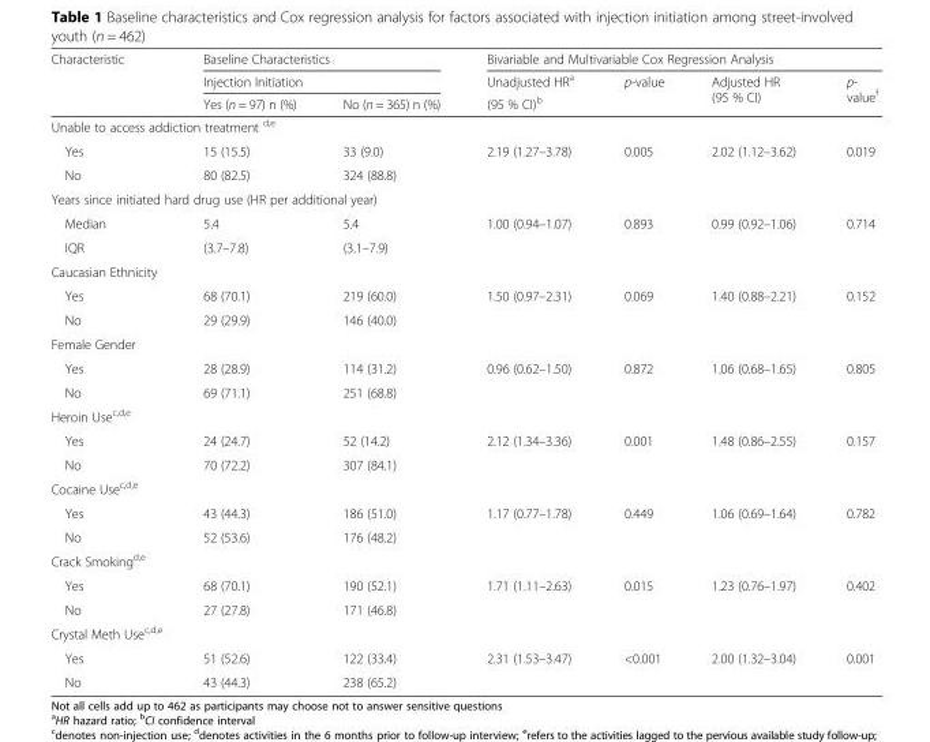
<table><thead><tr><td rowspan="3">Characteristic</td><td rowspan="2" colspan="2">Baseline Characteristics Injection Initiation</td><td colspan="4">Bivariable and Multivariable Cox Regression Analysis</td></tr><tr><td rowspan="2">Unadjusted HR<sup>a</sup> (95 % CI)<sup>b</sup></td><td rowspan="2">p-value</td><td rowspan="2">Adjusted HR (95 % CI)</td><td rowspan="2">p- value<sup>f</sup></td></tr><tr><td>Yes (n = 97) n (%)</td><td>No (n = 365) n (%)</td></tr></thead><tbody><tr><td colspan="7">Unable to access addiction treatment <sup>d,e</sup></td></tr><tr><td>Yes</td><td>15 (15.5)</td><td>33 (9.0)</td><td>2.19 (1.27–3.78)</td><td>0.005</td><td>2.02 (1.12–3.62)</td><td>0.019</td></tr><tr><td>No</td><td>80 (82.5)</td><td>324 (88.8)</td><td></td><td></td><td></td><td></td></tr><tr><td colspan="7">Years since initiated hard drug use (HR per additional year)</td></tr><tr><td>Median</td><td>5.4</td><td>5.4</td><td>1.00 (0.94–1.07)</td><td>0.893</td><td>0.99 (0.92–1.06)</td><td>0.714</td></tr><tr><td>IQR</td><td>(3.7–7.8)</td><td>(3.1–7.9)</td><td></td><td></td><td></td><td></td></tr><tr><td colspan="7">Caucasian Ethnicity</td></tr><tr><td>Yes</td><td>68 (70.1)</td><td>219 (60.0)</td><td>1.50 (0.97–2.31)</td><td>0.069</td><td>1.40 (0.88–2.21)</td><td>0.152</td></tr><tr><td>No</td><td>29 (29.9)</td><td>146 (40.0)</td><td></td><td></td><td></td><td></td></tr><tr><td colspan="7">Female Gender</td></tr><tr><td>Yes</td><td>28 (28.9)</td><td>114 (31.2)</td><td>0.96 (0.62–1.50)</td><td>0.872</td><td>1.06 (0.68–1.65)</td><td>0.805</td></tr><tr><td>No</td><td>69 (71.1)</td><td>251 (68.8)</td><td></td><td></td><td></td><td></td></tr><tr><td colspan="7">Heroin Use<sup>c,d,e</sup></td></tr><tr><td>Yes</td><td>24 (24.7)</td><td>52 (14.2)</td><td>2.12 (1.34–3.36)</td><td>0.001</td><td>1.48 (0.86–2.55)</td><td>0.157</td></tr><tr><td>No</td><td>70 (72.2)</td><td>307 (84.1)</td><td></td><td></td><td></td><td></td></tr><tr><td colspan="7">Cocaine Use<sup>c,d,e</sup></td></tr><tr><td>Yes</td><td>43 (44.3)</td><td>186 (51.0)</td><td>1.17 (0.77–1.78)</td><td>0.449</td><td>1.06 (0.69–1.64)</td><td>0.782</td></tr><tr><td>No</td><td>52 (53.6)</td><td>176 (48.2)</td><td></td><td></td><td></td><td></td></tr><tr><td colspan="7">Crack Smoking<sup>d,e</sup></td></tr><tr><td>Yes</td><td>68 (70.1)</td><td>190 (52.1)</td><td>1.71 (1.11–2.63)</td><td>0.015</td><td>1.23 (0.76–1.97)</td><td>0.402</td></tr><tr><td>No</td><td>27 (27.8)</td><td>171 (46.8)</td><td></td><td></td><td></td><td></td></tr><tr><td colspan="7">Crystal Meth Use<sup>c,d,e</sup></td></tr><tr><td>Yes</td><td>51 (52.6)</td><td>122 (33.4)</td><td>2.31 (1.53–3.47)</td><td>&lt;0.001</td><td>2.00 (1.32–3.04)</td><td>0.001</td></tr><tr><td>No</td><td>43 (44.3)</td><td>238 (65.2)</td><td></td><td></td><td></td><td></td></tr></tbody></table>